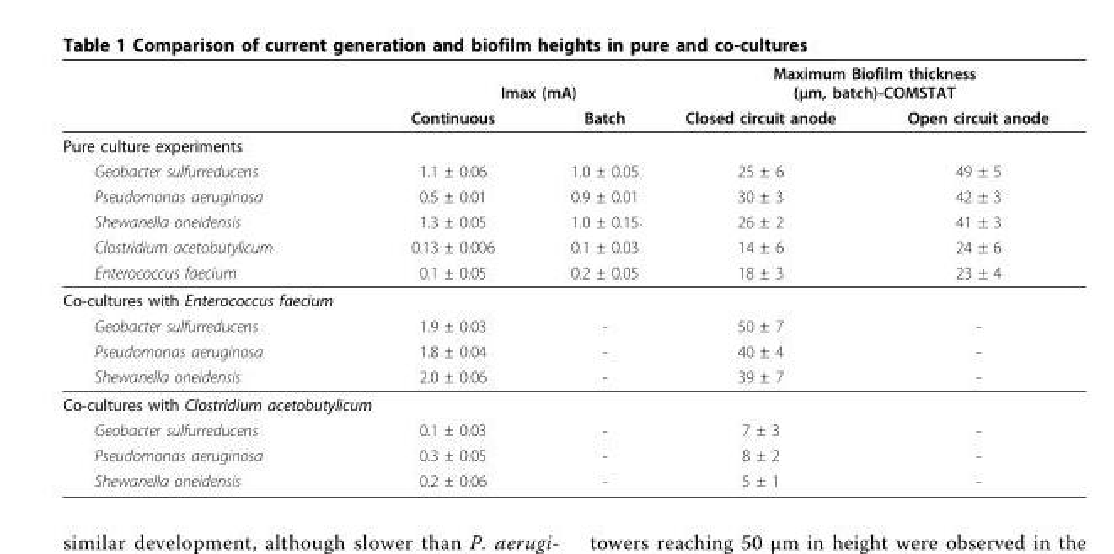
<table><thead><tr><td rowspan="2"></td><td colspan="2">Imax (mA)</td><td colspan="2">Maximum Biofilm thickness (μm, batch)-COMSTAT</td></tr><tr><td>Continuous</td><td>Batch</td><td>Closed circuit anode</td><td>Open circuit anode</td></tr><tr><td colspan="5">Pure culture experiments</td></tr></thead><tbody><tr><td>Geobacter sulfurreducens</td><td>1.1 ± 0.06</td><td>1.0 ± 0.05</td><td>25 ± 6</td><td>49 ± 5</td></tr><tr><td>Pseudomonas aeruginosa</td><td>0.5 ± 0.01</td><td>0.9 ± 0.01</td><td>30 ± 3</td><td>42 ± 3</td></tr><tr><td>Shewanella oneidensis</td><td>1.3 ± 0.05</td><td>1.0 ± 0.15</td><td>26 ± 2</td><td>41 ± 3</td></tr><tr><td>Clostridium acetobutylicum</td><td>0.13 ± 0.006</td><td>0.1 ± 0.03</td><td>14 ± 6</td><td>24 ± 6</td></tr><tr><td>Enterococcus faecium</td><td>0.1 ± 0.05</td><td>0.2 ± 0.05</td><td>18 ± 3</td><td>23 ± 4</td></tr><tr><td colspan="5">Co-cultures with Enterococcus faecium</td></tr><tr><td>Geobacter sulfurreducens</td><td>1.9 ± 0.03</td><td>-</td><td>50 ± 7</td><td>-</td></tr><tr><td>Pseudomonas aeruginosa</td><td>1.8 ± 0.04</td><td>-</td><td>40 ± 4</td><td>-</td></tr><tr><td>Shewanella oneidensis</td><td>2.0 ± 0.06</td><td>-</td><td>39 ± 7</td><td>-</td></tr><tr><td colspan="5">Co-cultures with Clostridium acetobutylicum</td></tr><tr><td>Geobacter sulfurreducens</td><td>0.1 ± 0.03</td><td>-</td><td>7 ± 3</td><td>-</td></tr><tr><td>Pseudomonas aeruginosa</td><td>0.3 ± 0.05</td><td>-</td><td>8 ± 2</td><td>-</td></tr><tr><td>Shewanella oneidensis</td><td>0.2 ± 0.06</td><td>-</td><td>5 ± 1</td><td>-</td></tr></tbody></table>